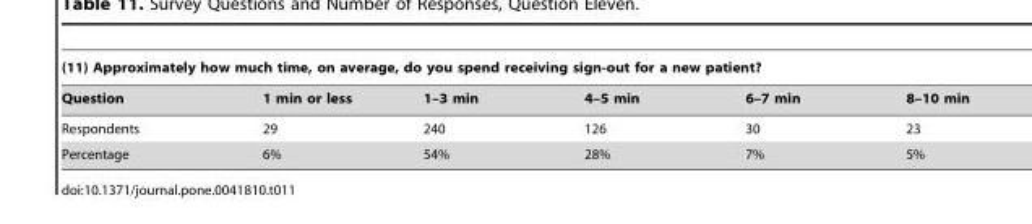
<table><thead><tr><td colspan="6">(11) Approximately how much time, on average, do you spend receiving sign-out for a new patient?</td></tr><tr><td>Question</td><td>1 min or less</td><td>1–3 min</td><td>4–5 min</td><td>6–7 min</td><td>8–10 min</td></tr></thead><tbody><tr><td>Respondents</td><td>29</td><td>240</td><td>126</td><td>30</td><td>23</td></tr><tr><td>Percentage</td><td>6%</td><td>54%</td><td>28%</td><td>7%</td><td>5%</td></tr></tbody></table>